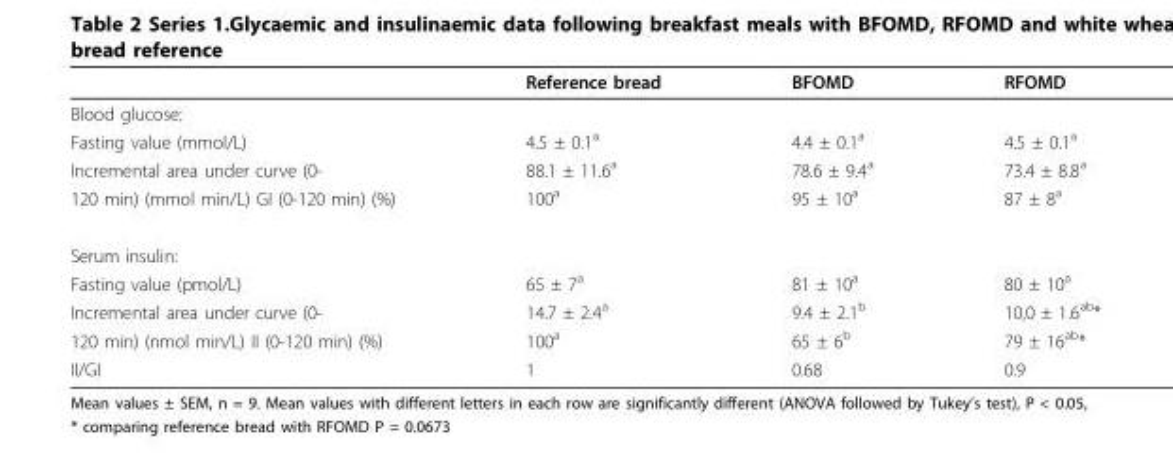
<table><thead><tr><td></td><td>Reference bread</td><td>BFOMD</td><td>RFOMD</td></tr></thead><tbody><tr><td colspan="4">Blood glucose:</td></tr><tr><td>Fasting value (mmol/L)</td><td>4.5 ± 0.1<sup>a</sup></td><td>4.4 ± 0.1<sup>a</sup></td><td>4.5 ± 0.1<sup>a</sup></td></tr><tr><td>Incremental area under curve (0-</td><td>88.1 ± 11.6<sup>a</sup></td><td>78.6 ± 9.4<sup>a</sup></td><td>73.4 ± 8.8<sup>a</sup></td></tr><tr><td>120 min) (mmol min/L) GI (0-120 min) (%)</td><td>100<sup>a</sup></td><td>95 ± 10<sup>a</sup></td><td>87 ± 8<sup>a</sup></td></tr><tr><td colspan="4">Serum insulin:</td></tr><tr><td>Fasting value (pmol/L)</td><td>65 ± 7<sup>a</sup></td><td>81 ± 10<sup>a</sup></td><td>80 ± 10<sup>a</sup></td></tr><tr><td>Incremental area under curve (0-</td><td>14.7 ± 2.4<sup>a</sup></td><td>9.4 ± 2.1<sup>b</sup></td><td>10,0 ± 1.6<sup>ab</sup>*</td></tr><tr><td>120 min) (nmol min/L) II (0-120 min) (%)</td><td>100<sup>a</sup></td><td>65 ± 6<sup>b</sup></td><td>79 ± 16<sup>ab</sup>*</td></tr><tr><td>II/GI</td><td>1</td><td>0.68</td><td>0.9</td></tr></tbody></table>